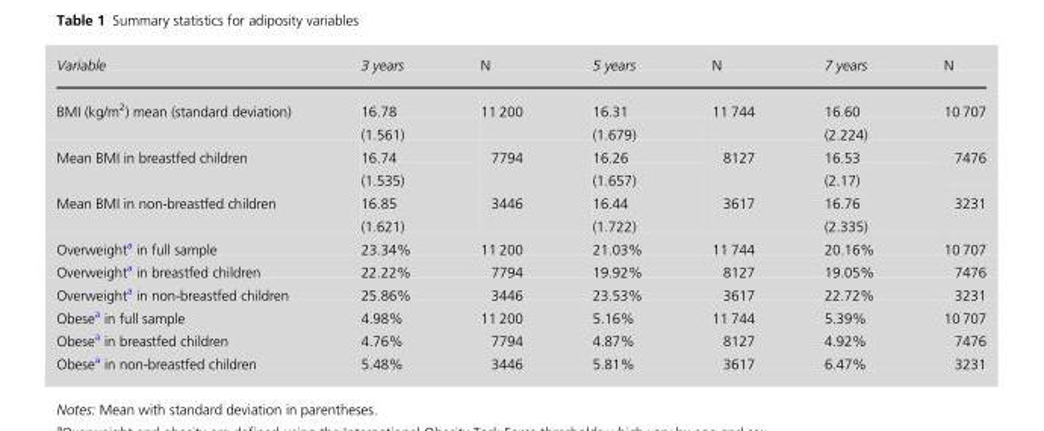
<table><thead><tr><td>Variable</td><td>3 years</td><td>N</td><td>5 years</td><td>N</td><td>7 years</td><td>N</td></tr></thead><tbody><tr><td rowspan="2">BMI (kg/m<sup>2</sup>) mean (standard deviation)</td><td>16.78</td><td rowspan="2">11 200</td><td>16.31</td><td rowspan="2">11 744</td><td>16.60</td><td rowspan="2">10 707</td></tr><tr><td>(1.561)</td><td>(1.679)</td><td>(2.224)</td></tr><tr><td rowspan="2">Mean BMI in breastfed children</td><td>16.74</td><td rowspan="2">7794</td><td>16.26</td><td rowspan="2">8127</td><td>16.53</td><td rowspan="2">7476</td></tr><tr><td>(1.535)</td><td>(1.657)</td><td>(2.17)</td></tr><tr><td rowspan="2">Mean BMI in non-breastfed children</td><td>16.85</td><td rowspan="2">3446</td><td>16.44</td><td rowspan="2">3617</td><td>16.76</td><td rowspan="2">3231</td></tr><tr><td>(1.621)</td><td>(1.722)</td><td>(2.335)</td></tr><tr><td>Overweight<sup>a</sup> in full sample</td><td>23.34%</td><td>11 200</td><td>21.03%</td><td>11 744</td><td>20.16%</td><td>10 707</td></tr><tr><td>Overweight<sup>a</sup> in breastfed children</td><td>22.22%</td><td>7794</td><td>19.92%</td><td>8127</td><td>19.05%</td><td>7476</td></tr><tr><td>Overweight<sup>a</sup> in non-breastfed children</td><td>25.86%</td><td>3446</td><td>23.53%</td><td>3617</td><td>22.72%</td><td>3231</td></tr><tr><td>Obese<sup>a</sup> in full sample</td><td>4.98%</td><td>11 200</td><td>5.16%</td><td>11 744</td><td>5.39%</td><td>10 707</td></tr><tr><td>Obese<sup>a</sup> in breastfed children</td><td>4.76%</td><td>7794</td><td>4.87%</td><td>8127</td><td>4.92%</td><td>7476</td></tr><tr><td>Obese<sup>a</sup> in non-breastfed children</td><td>5.48%</td><td>3446</td><td>5.81%</td><td>3617</td><td>6.47%</td><td>3231</td></tr></tbody></table>